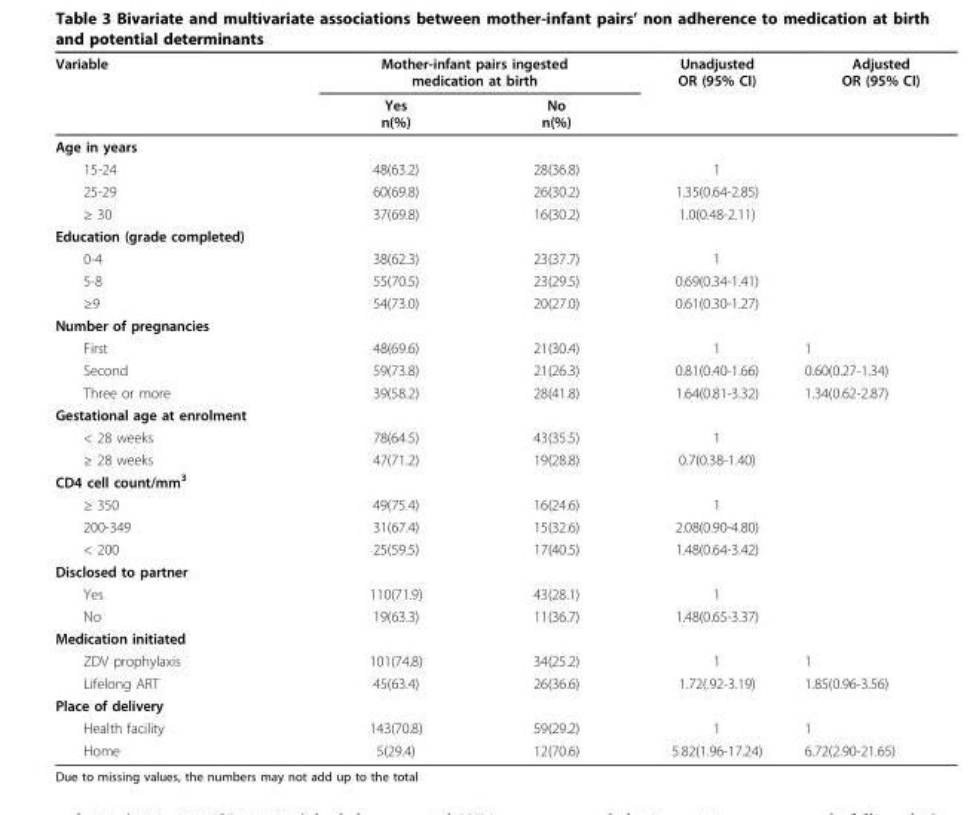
<table><thead><tr><td rowspan="2">Variable</td><td colspan="2">Mother-infant pairs ingested medication at birth</td><td rowspan="2">Unadjusted OR (95% CI)</td><td rowspan="2">Adjusted OR (95% CI)</td></tr><tr><td>Yes n(%)</td><td>No n(%)</td></tr></thead><tbody><tr><td colspan="5">Age in years</td></tr><tr><td>15-24</td><td>48(63.2)</td><td>28(36.8)</td><td>1</td><td></td></tr><tr><td>25-29</td><td>60(69.8)</td><td>26(30.2)</td><td>1.35(0.64-2.85)</td><td></td></tr><tr><td>≥ 30</td><td>37(69.8)</td><td>16(30.2)</td><td>1.0(0.48-2.11)</td><td></td></tr><tr><td colspan="5">Education (grade completed)</td></tr><tr><td>0-4</td><td>38(62.3)</td><td>23(37.7)</td><td>1</td><td></td></tr><tr><td>5-8</td><td>55(70.5)</td><td>23(29.5)</td><td>0.69(0.34-1.41)</td><td></td></tr><tr><td>≥9</td><td>54(73.0)</td><td>20(27.0)</td><td>0.61(0.30-1.27)</td><td></td></tr><tr><td colspan="5">Number of pregnancies</td></tr><tr><td>First</td><td>48(69.6)</td><td>21(30.4)</td><td>1</td><td>1</td></tr><tr><td>Second</td><td>59(73.8)</td><td>21(26.3)</td><td>0.81(0.40-1.66)</td><td>0.60(0.27-1.34)</td></tr><tr><td>Three or more</td><td>39(58.2)</td><td>28(41.8)</td><td>1.64(0.81-3.32)</td><td>1.34(0.62-2.87)</td></tr><tr><td colspan="5">Gestational age at enrolment</td></tr><tr><td>&lt; 28 weeks</td><td>78(64.5)</td><td>43(35.5)</td><td>1</td><td></td></tr><tr><td>≥ 28 weeks</td><td>47(71.2)</td><td>19(28.8)</td><td>0.7(0.38-1.40)</td><td></td></tr><tr><td colspan="5">CD4 cell count/mm<sup>3</sup></td></tr><tr><td>≥ 350</td><td>49(75.4)</td><td>16(24.6)</td><td>1</td><td></td></tr><tr><td>200-349</td><td>31(67.4)</td><td>15(32.6)</td><td>2.08(0.90-4.80)</td><td></td></tr><tr><td>&lt; 200</td><td>25(59.5)</td><td>17(40.5)</td><td>1.48(0.64-3.42)</td><td></td></tr><tr><td colspan="5">Disclosed to partner</td></tr><tr><td>Yes</td><td>110(71.9)</td><td>43(28.1)</td><td>1</td><td></td></tr><tr><td>No</td><td>19(63.3)</td><td>11(36.7)</td><td>1.48(0.65-3.37)</td><td></td></tr><tr><td colspan="5">Medication initiated</td></tr><tr><td>ZDV prophylaxis</td><td>101(74.8)</td><td>34(25.2)</td><td>1</td><td>1</td></tr><tr><td>Lifelong ART</td><td>45(63.4)</td><td>26(36.6)</td><td>1.72(.92-3.19)</td><td>1.85(0.96-3.56)</td></tr><tr><td colspan="5">Place of delivery</td></tr><tr><td>Health facility</td><td>143(70.8)</td><td>59(29.2)</td><td>1</td><td>1</td></tr><tr><td>Home</td><td>5(29.4)</td><td>12(70.6)</td><td>5.82(1.96-17.24)</td><td>6.72(2.90-21.65)</td></tr></tbody></table>